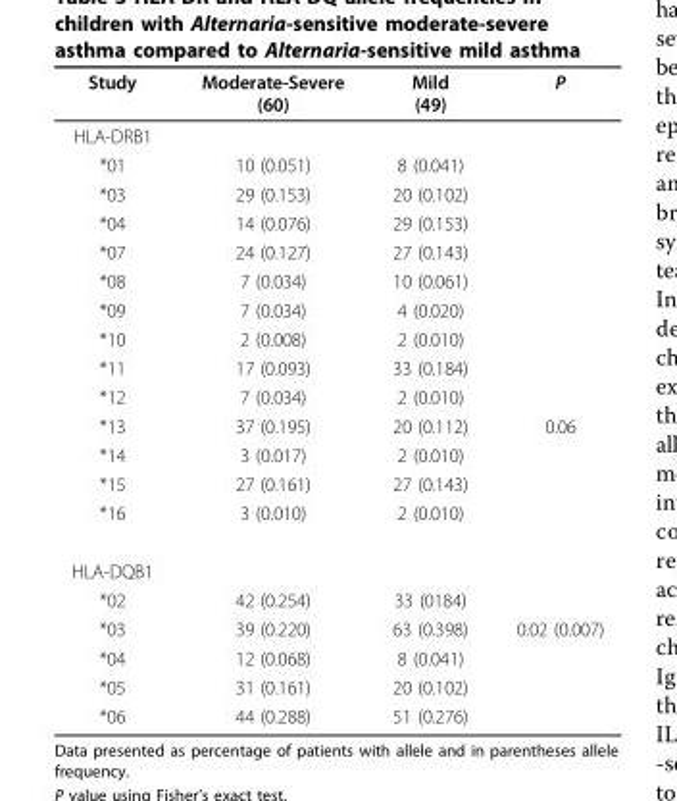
<table><thead><tr><td>Study</td><td>Moderate-Severe (60)</td><td>Mild (49)</td><td>P</td></tr></thead><tbody><tr><td colspan="4">HLA-DRB1</td></tr><tr><td>*01</td><td>10 (0.051)</td><td>8 (0.041)</td><td></td></tr><tr><td>*03</td><td>29 (0.153)</td><td>20 (0.102)</td><td></td></tr><tr><td>*04</td><td>14 (0.076)</td><td>29 (0.153)</td><td></td></tr><tr><td>*07</td><td>24 (0.127)</td><td>27 (0.143)</td><td></td></tr><tr><td>*08</td><td>7 (0.034)</td><td>10 (0.061)</td><td></td></tr><tr><td>*09</td><td>7 (0.034)</td><td>4 (0.020)</td><td></td></tr><tr><td>*10</td><td>2 (0.008)</td><td>2 (0.010)</td><td></td></tr><tr><td>*11</td><td>17 (0.093)</td><td>33 (0.184)</td><td></td></tr><tr><td>*12</td><td>7 (0.034)</td><td>2 (0.010)</td><td></td></tr><tr><td>*13</td><td>37 (0.195)</td><td>20 (0.112)</td><td>0.06</td></tr><tr><td>*14</td><td>3 (0.017)</td><td>2 (0.010)</td><td></td></tr><tr><td>*15</td><td>27 (0.161)</td><td>27 (0.143)</td><td></td></tr><tr><td>*16</td><td>3 (0.010)</td><td>2 (0.010)</td><td></td></tr><tr><td colspan="4">HLA-DQB1</td></tr><tr><td>*02</td><td>42 (0.254)</td><td>33 (0184)</td><td></td></tr><tr><td>*03</td><td>39 (0.220)</td><td>63 (0.398)</td><td>0.02 (0.007)</td></tr><tr><td>*04</td><td>12 (0.068)</td><td>8 (0.041)</td><td></td></tr><tr><td>*05</td><td>31 (0.161)</td><td>20 (0.102)</td><td></td></tr><tr><td>*06</td><td>44 (0.288)</td><td>51 (0.276)</td><td></td></tr></tbody></table>